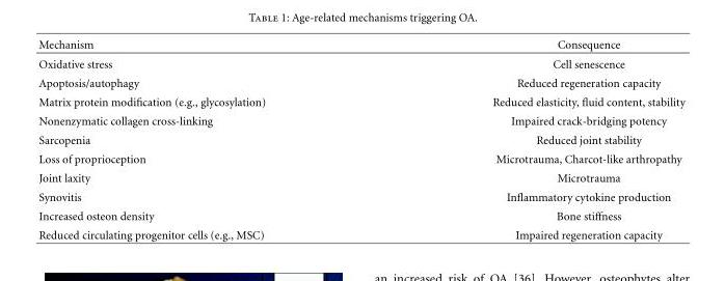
<table><thead><tr><td>Mechanism</td><td>Consequence</td></tr></thead><tbody><tr><td>Oxidative stress</td><td>Cell senescence</td></tr><tr><td>Apoptosis/autophagy</td><td>Reduced regeneration capacity</td></tr><tr><td>Matrix protein modification (e.g., glycosylation)</td><td>Reduced elasticity, fluid content, stability</td></tr><tr><td>Nonenzymatic collagen cross-linking</td><td>Impaired crack-bridging potency</td></tr><tr><td>Sarcopenia</td><td>Reduced joint stability</td></tr><tr><td>Loss of proprioception</td><td>Microtrauma, Charcot-like arthropathy</td></tr><tr><td>Joint laxity</td><td>Microtrauma</td></tr><tr><td>Synovitis</td><td>Inflammatory cytokine production</td></tr><tr><td>Increased osteon density</td><td>Bone stiffness</td></tr><tr><td>Reduced circulating progenitor cells (e.g., MSC)</td><td>Impaired regeneration capacity</td></tr></tbody></table>